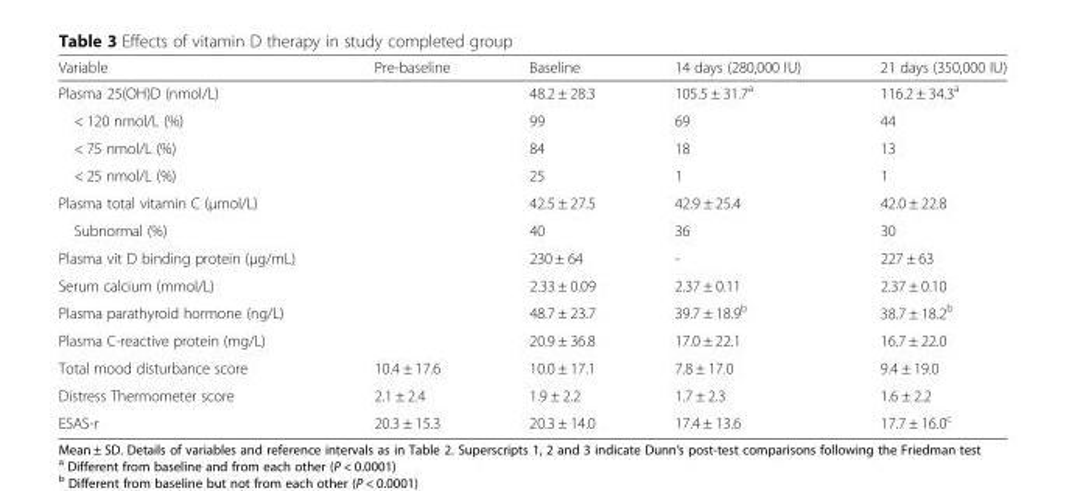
<table><thead><tr><td>Variable</td><td>Pre-baseline</td><td>Baseline</td><td>14 days (280,000 IU)</td><td>21 days (350,000 IU)</td></tr></thead><tbody><tr><td>Plasma 25(OH)D (nmol/L)</td><td></td><td>48.2 ± 28.3</td><td>105.5 ± 31.7<sup>a</sup></td><td>116.2 ± 34.3<sup>a</sup></td></tr><tr><td>&lt; 120 nmol/L (%)</td><td></td><td>99</td><td>69</td><td>44</td></tr><tr><td>&lt; 75 nmol/L (%)</td><td></td><td>84</td><td>18</td><td>13</td></tr><tr><td>&lt; 25 nmol/L (%)</td><td></td><td>25</td><td>1</td><td>1</td></tr><tr><td>Plasma total vitamin C (μmol/L)</td><td></td><td>42.5 ± 27.5</td><td>42.9 ± 25.4</td><td>42.0 ± 22.8</td></tr><tr><td>Subnormal (%)</td><td></td><td>40</td><td>36</td><td>30</td></tr><tr><td>Plasma vit D binding protein (μg/mL)</td><td></td><td>230 ± 64</td><td>-</td><td>227 ± 63</td></tr><tr><td>Serum calcium (mmol/L)</td><td></td><td>2.33 ± 0.09</td><td>2.37 ± 0.11</td><td>2.37 ± 0.10</td></tr><tr><td>Plasma parathyroid hormone (ng/L)</td><td></td><td>48.7 ± 23.7</td><td>39.7 ± 18.9<sup>b</sup></td><td>38.7 ± 18.2<sup>b</sup></td></tr><tr><td>Plasma C-reactive protein (mg/L)</td><td></td><td>20.9 ± 36.8</td><td>17.0 ± 22.1</td><td>16.7 ± 22.0</td></tr><tr><td>Total mood disturbance score</td><td>10.4 ± 17.6</td><td>10.0 ± 17.1</td><td>7.8 ± 17.0</td><td>9.4 ± 19.0</td></tr><tr><td>Distress Thermometer score</td><td>2.1 ± 2.4</td><td>1.9 ± 2.2</td><td>1.7 ± 2.3</td><td>1.6 ± 2.2</td></tr><tr><td>ESAS-r</td><td>20.3 ± 15.3</td><td>20.3 ± 14.0</td><td>17.4 ± 13.6</td><td>17.7 ± 16.0<sup>c</sup></td></tr></tbody></table>